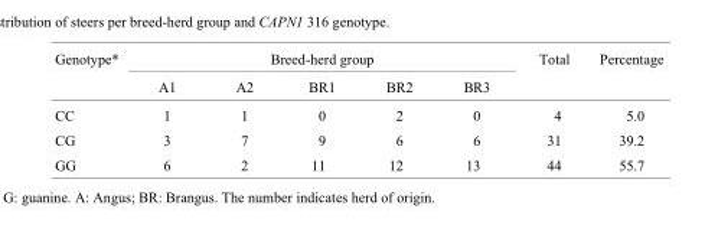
<table><thead><tr><td rowspan="2">Genotype*</td><td colspan="5">Breed-herd group</td><td rowspan="2">Total</td><td rowspan="2">Percentage</td></tr><tr><td>A1</td><td>A2</td><td>BR1</td><td>BR2</td><td>BR3</td></tr></thead><tbody><tr><td>CC</td><td>1</td><td>1</td><td>0</td><td>2</td><td>0</td><td>4</td><td>5.0</td></tr><tr><td>CG</td><td>3</td><td>7</td><td>9</td><td>6</td><td>6</td><td>31</td><td>39.2</td></tr><tr><td>GG</td><td>6</td><td>2</td><td>11</td><td>12</td><td>13</td><td>44</td><td>55.7</td></tr></tbody></table>